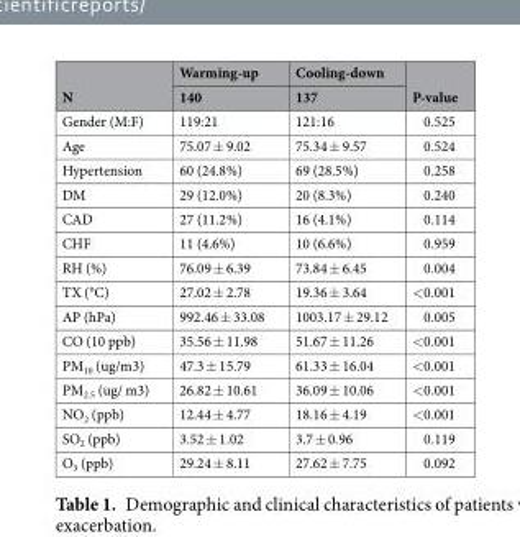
<table><thead><tr><td rowspan="2">N</td><td rowspan="2">Warming-up 140</td><td rowspan="2">Cooling-down 137</td><td rowspan="2">P-value</td></tr><tr></tr></thead><tbody><tr><td>Gender (M:F)</td><td>119:21</td><td>121:16</td><td>0.525</td></tr><tr><td>Age</td><td>75.07 ± 9.02</td><td>75.34 ± 9.57</td><td>0.524</td></tr><tr><td>Hypertension</td><td>60 (24.8%)</td><td>69 (28.5%)</td><td>0.258</td></tr><tr><td>DM</td><td>29 (12.0%)</td><td>20 (8.3%)</td><td>0.240</td></tr><tr><td>CAD</td><td>27 (11.2%)</td><td>16 (4.1%)</td><td>0.114</td></tr><tr><td>CHF</td><td>11 (4.6%)</td><td>10 (6.6%)</td><td>0.959</td></tr><tr><td>RH (%)</td><td>76.09 ± 6.39</td><td>73.84 ± 6.45</td><td>0.004</td></tr><tr><td>TX (°C)</td><td>27.02 ± 2.78</td><td>19.36 ± 3.64</td><td>&lt;0.001</td></tr><tr><td>AP (hPa)</td><td>992.46 ± 33.08</td><td>1003.17 ± 29.12</td><td>0.005</td></tr><tr><td>CO (10 ppb)</td><td>35.56 ± 11.98</td><td>51.67 ± 11.26</td><td>&lt;0.001</td></tr><tr><td>PM<sub>10</sub> (ug/m3)</td><td>47.3 ± 15.79</td><td>61.33 ± 16.04</td><td>&lt;0.001</td></tr><tr><td>PM<sub>2.5</sub> (ug/ m3)</td><td>26.82 ± 10.61</td><td>36.09 ± 10.06</td><td>&lt;0.001</td></tr><tr><td>NO<sub>2</sub> (ppb)</td><td>12.44 ± 4.77</td><td>18.16 ± 4.19</td><td>&lt;0.001</td></tr><tr><td>SO<sub>2</sub> (ppb)</td><td>3.52 ± 1.02</td><td>3.7 ± 0.96</td><td>0.119</td></tr><tr><td>O<sub>3</sub> (ppb)</td><td>29.24 ± 8.11</td><td>27.62 ± 7.75</td><td>0.092</td></tr></tbody></table>